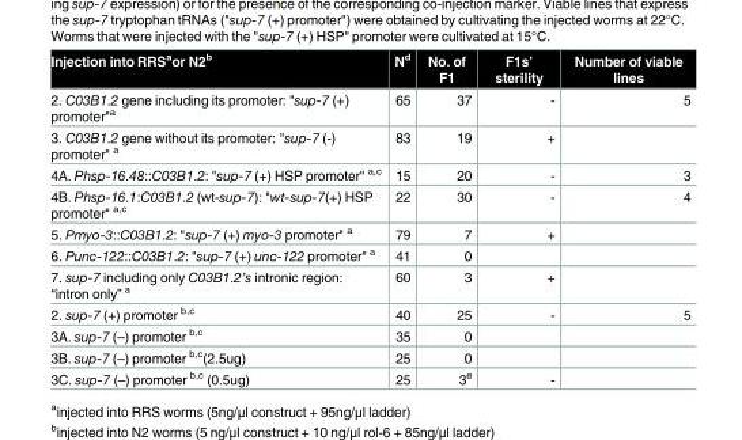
<table><thead><tr><td>Injection into RRS<sup>a</sup>or N2<sup>b</sup></td><td>N<sup>d</sup></td><td>No. of F1</td><td>F1s’ sterility</td><td>Number of viable lines</td></tr></thead><tbody><tr><td>2. C03B1.2 gene including its promoter: &quot;sup-7 (+) promoter&quot;<sup>a</sup></td><td>65</td><td>37</td><td>-</td><td>5</td></tr><tr><td>3. C03B1.2 gene without its promoter: &quot;sup-7 (-) promoter&quot; <sup>a</sup></td><td>83</td><td>19</td><td>+</td><td></td></tr><tr><td>4A. Phsp-16.48::C03B1.2: &quot;sup-7 (+) HSP promoter&quot; <sup>a,c</sup></td><td>15</td><td>20</td><td>-</td><td>3</td></tr><tr><td>4B. Phsp-16.1:C03B1.2 (wt-sup-7): &quot;wt-sup-7(+) HSP promoter&quot; <sup>a,c</sup></td><td>22</td><td>30</td><td>-</td><td>4</td></tr><tr><td>5. Pmyo-3::C03B1.2: &quot;sup-7 (+) myo-3 promoter&quot; <sup>a</sup></td><td>79</td><td>7</td><td>+</td><td></td></tr><tr><td>6. Punc-122::C03B1.2: &quot;sup-7 (+) unc-122 promoter&quot; <sup>a</sup></td><td>41</td><td>0</td><td></td><td></td></tr><tr><td>7. sup-7 including only C03B1.2’s intronic region: “intron only” <sup>a</sup></td><td>60</td><td>3</td><td>+</td><td></td></tr><tr><td>2. sup-7 (+) promoter <sup>b,c</sup></td><td>40</td><td>25</td><td>-</td><td>5</td></tr><tr><td>3A. sup-7 (–) promoter <sup>b,c</sup></td><td>35</td><td>0</td><td></td><td></td></tr><tr><td>3B. sup-7 (–) promoter <sup>b,c</sup>(2.5ug)</td><td>25</td><td>0</td><td></td><td></td></tr><tr><td>3C. sup-7 (–) promoter <sup>b,c</sup> (0.5ug)</td><td>25</td><td>3<sup>e</sup></td><td>-</td><td></td></tr></tbody></table>